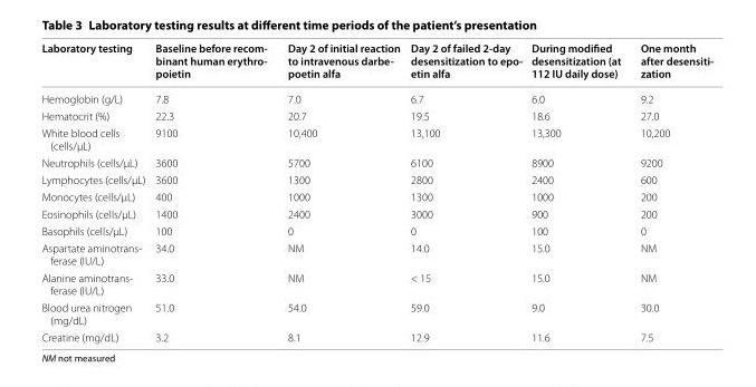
<table><thead><tr><td>Laboratory testing</td><td>Baseline before recom- binant human erythro- poietin</td><td>Day 2 of initial reaction to intravenous darbe- poetin alfa</td><td>Day 2 of failed 2-day desensitization to epo- etin alfa</td><td>During modified desensitization (at 112 IU daily dose)</td><td>One month after desensiti- zation</td></tr></thead><tbody><tr><td>Hemoglobin (g/L)</td><td>7.8</td><td>7.0</td><td>6.7</td><td>6.0</td><td>9.2</td></tr><tr><td>Hematocrit (%)</td><td>22.3</td><td>20.7</td><td>19.5</td><td>18.6</td><td>27.0</td></tr><tr><td>White blood cells (cells/μL)</td><td>9100</td><td>10,400</td><td>13,100</td><td>13,300</td><td>10,200</td></tr><tr><td>Neutrophils (cells/μL)</td><td>3600</td><td>5700</td><td>6100</td><td>8900</td><td>9200</td></tr><tr><td>Lymphocytes (cells/μL)</td><td>3600</td><td>1300</td><td>2800</td><td>2400</td><td>600</td></tr><tr><td>Monocytes (cells/μL)</td><td>400</td><td>1000</td><td>1300</td><td>1000</td><td>200</td></tr><tr><td>Eosinophils (cells/μL)</td><td>1400</td><td>2400</td><td>3000</td><td>900</td><td>200</td></tr><tr><td>Basophils (cells/μL)</td><td>100</td><td>0</td><td>0</td><td>100</td><td>0</td></tr><tr><td>Aspartate aminotrans- ferase (IU/L)</td><td>34.0</td><td>NM</td><td>14.0</td><td>15.0</td><td>NM</td></tr><tr><td>Alanine aminotrans- ferase (IU/L)</td><td>33.0</td><td>NM</td><td>&lt; 15</td><td>15.0</td><td>NM</td></tr><tr><td>Blood urea nitrogen (mg/dL)</td><td>51.0</td><td>54.0</td><td>59.0</td><td>9.0</td><td>30.0</td></tr><tr><td>Creatine (mg/dL)</td><td>3.2</td><td>8.1</td><td>12.9</td><td>11.6</td><td>7.5</td></tr></tbody></table>